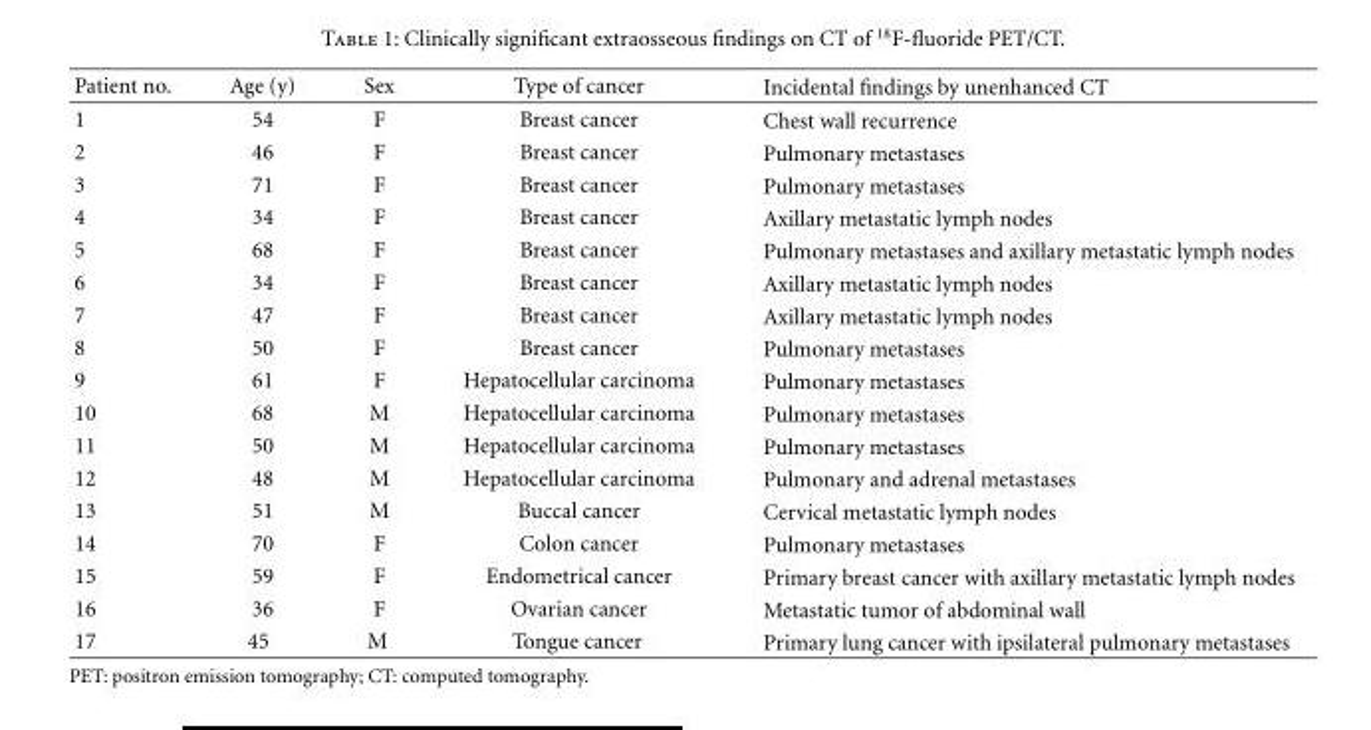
<table><thead><tr><td>Patient no.</td><td>Age (y)</td><td>Sex</td><td>Type of cancer</td><td>Incidental findings by unenhanced CT</td></tr></thead><tbody><tr><td>1</td><td>54</td><td>F</td><td>Breast cancer</td><td>Chest wall recurrence</td></tr><tr><td>2</td><td>46</td><td>F</td><td>Breast cancer</td><td>Pulmonary metastases</td></tr><tr><td>3</td><td>71</td><td>F</td><td>Breast cancer</td><td>Pulmonary metastases</td></tr><tr><td>4</td><td>34</td><td>F</td><td>Breast cancer</td><td>Axillary metastatic lymph nodes</td></tr><tr><td>5</td><td>68</td><td>F</td><td>Breast cancer</td><td>Pulmonary metastases and axillary metastatic lymph nodes</td></tr><tr><td>6</td><td>34</td><td>F</td><td>Breast cancer</td><td>Axillary metastatic lymph nodes</td></tr><tr><td>7</td><td>47</td><td>F</td><td>Breast cancer</td><td>Axillary metastatic lymph nodes</td></tr><tr><td>8</td><td>50</td><td>F</td><td>Breast cancer</td><td>Pulmonary metastases</td></tr><tr><td>9</td><td>61</td><td>F</td><td>Hepatocellular carcinoma</td><td>Pulmonary metastases</td></tr><tr><td>10</td><td>68</td><td>M</td><td>Hepatocellular carcinoma</td><td>Pulmonary metastases</td></tr><tr><td>11</td><td>50</td><td>M</td><td>Hepatocellular carcinoma</td><td>Pulmonary metastases</td></tr><tr><td>12</td><td>48</td><td>M</td><td>Hepatocellular carcinoma</td><td>Pulmonary and adrenal metastases</td></tr><tr><td>13</td><td>51</td><td>M</td><td>Buccal cancer</td><td>Cervical metastatic lymph nodes</td></tr><tr><td>14</td><td>70</td><td>F</td><td>Colon cancer</td><td>Pulmonary metastases</td></tr><tr><td>15</td><td>59</td><td>F</td><td>Endometrical cancer</td><td>Primary breast cancer with axillary metastatic lymph nodes</td></tr><tr><td>16</td><td>36</td><td>F</td><td>Ovarian cancer</td><td>Metastatic tumor of abdominal wall</td></tr><tr><td>17</td><td>45</td><td>M</td><td>Tongue cancer</td><td>Primary lung cancer with ipsilateral pulmonary metastases</td></tr></tbody></table>